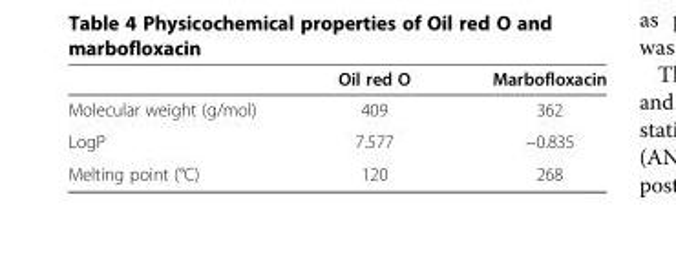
<table><thead><tr><td></td><td>Oil red O</td><td>Marbofloxacin</td></tr></thead><tbody><tr><td>Molecular weight (g/mol)</td><td>409</td><td>362</td></tr><tr><td>LogP</td><td>7.577</td><td>−0.835</td></tr><tr><td>Melting point (°C)</td><td>120</td><td>268</td></tr></tbody></table>